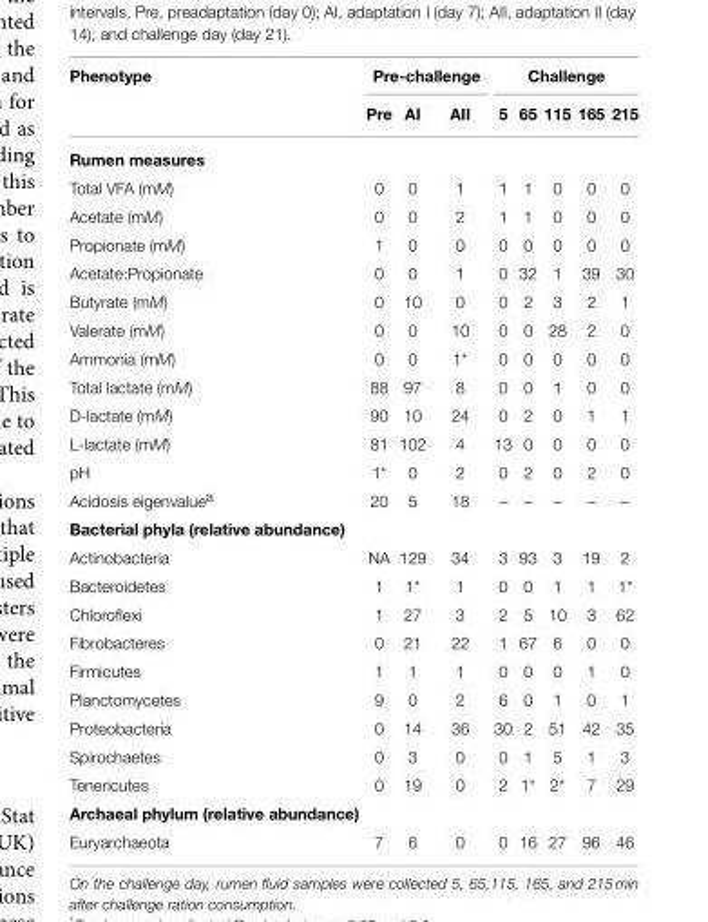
<table><thead><tr><td rowspan="2">Phenotype</td><td colspan="3">Pre-challenge</td><td colspan="5">Challenge</td></tr><tr><td>Pre</td><td>AI</td><td>AII</td><td>5</td><td>65</td><td>115</td><td>165</td><td>215</td></tr></thead><tbody><tr><td colspan="9">Rumen measures</td></tr><tr><td>Total VFA (mM)</td><td>0</td><td>0</td><td>1</td><td>1</td><td>1</td><td>0</td><td>0</td><td>0</td></tr><tr><td>Acetate (mM)</td><td>0</td><td>0</td><td>2</td><td>1</td><td>1</td><td>0</td><td>0</td><td>0</td></tr><tr><td>Propionate (mM)</td><td>1</td><td>0</td><td>0</td><td>0</td><td>0</td><td>0</td><td>0</td><td>0</td></tr><tr><td>Acetate:Propionate</td><td>0</td><td>0</td><td>1</td><td>0</td><td>32</td><td>1</td><td>39</td><td>30</td></tr><tr><td>Butyrate (mM)</td><td>0</td><td>10</td><td>0</td><td>0</td><td>2</td><td>3</td><td>2</td><td>1</td></tr><tr><td>Valerate (mM)</td><td>0</td><td>0</td><td>10</td><td>0</td><td>0</td><td>28</td><td>2</td><td>0</td></tr><tr><td>Ammonia (mM)</td><td>0</td><td>0</td><td>1*</td><td>0</td><td>0</td><td>0</td><td>0</td><td>0</td></tr><tr><td>Total lactate (mM)</td><td>88</td><td>97</td><td>8</td><td>0</td><td>0</td><td>1</td><td>0</td><td>0</td></tr><tr><td>D-lactate (mM)</td><td>90</td><td>10</td><td>24</td><td>0</td><td>2</td><td>0</td><td>1</td><td>1</td></tr><tr><td>L-lactate (mM)</td><td>81</td><td>102</td><td>4</td><td>13</td><td>0</td><td>0</td><td>0</td><td>0</td></tr><tr><td>pH</td><td>1*</td><td>0</td><td>2</td><td>0</td><td>2</td><td>0</td><td>2</td><td>0</td></tr><tr><td>Acidosis eigenvalue<sup>a</sup></td><td>20</td><td>5</td><td>18</td><td>–</td><td>–</td><td>–</td><td>–</td><td>–</td></tr><tr><td colspan="9">Bacterial phyla (relative abundance)</td></tr><tr><td>Actinobacteria</td><td>NA</td><td>129</td><td>34</td><td>3</td><td>93</td><td>3</td><td>19</td><td>2</td></tr><tr><td>Bacteroidetes</td><td>1</td><td>1*</td><td>1</td><td>0</td><td>0</td><td>1</td><td>1</td><td>1*</td></tr><tr><td>Chloroflexi</td><td>1</td><td>27</td><td>3</td><td>2</td><td>5</td><td>10</td><td>3</td><td>62</td></tr><tr><td>Fibrobacteres</td><td>0</td><td>21</td><td>22</td><td>1</td><td>67</td><td>6</td><td>0</td><td>0</td></tr><tr><td>Firmicutes</td><td>1</td><td>1</td><td>1</td><td>0</td><td>0</td><td>0</td><td>1</td><td>0</td></tr><tr><td>Planctomycetes</td><td>9</td><td>0</td><td>2</td><td>6</td><td>0</td><td>1</td><td>0</td><td>1</td></tr><tr><td>Proteobacteria</td><td>0</td><td>14</td><td>36</td><td>30</td><td>2</td><td>51</td><td>42</td><td>35</td></tr><tr><td>Spirochaetes</td><td>0</td><td>3</td><td>0</td><td>0</td><td>1</td><td>5</td><td>1</td><td>3</td></tr><tr><td>Tenericutes</td><td>0</td><td>19</td><td>0</td><td>2</td><td>1*</td><td>2*</td><td>7</td><td>29</td></tr><tr><td colspan="9">Archaeal phylum (relative abundance)</td></tr><tr><td>Euryarchaeota</td><td>7</td><td>6</td><td>0</td><td>0</td><td>16</td><td>27</td><td>96</td><td>46</td></tr></tbody></table>